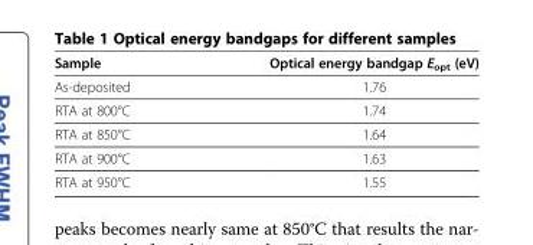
<table><thead><tr><td>Sample</td><td>Optical energy bandgap E<sub>opt</sub> (eV)</td></tr></thead><tbody><tr><td>As-deposited</td><td>1.76</td></tr><tr><td>RTA at 800°C</td><td>1.74</td></tr><tr><td>RTA at 850°C</td><td>1.64</td></tr><tr><td>RTA at 900°C</td><td>1.63</td></tr><tr><td>RTA at 950°C</td><td>1.55</td></tr></tbody></table>